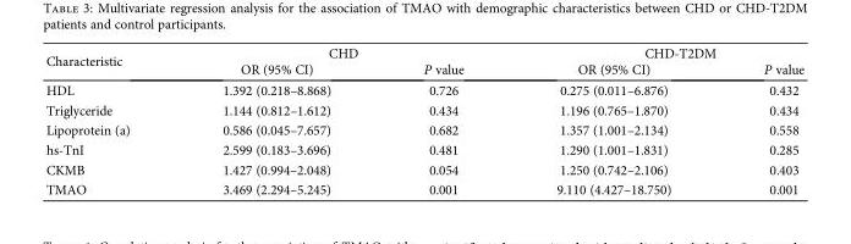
<table><thead><tr><td rowspan="2">Characteristic</td><td colspan="2">CHD</td><td colspan="2">CHD-T2DM</td></tr><tr><td>OR (95% CI)</td><td>P value</td><td>OR (95% CI)</td><td>P value</td></tr></thead><tbody><tr><td>HDL</td><td>1.392 (0.218–8.868)</td><td>0.726</td><td>0.275 (0.011–6.876)</td><td>0.432</td></tr><tr><td>Triglyceride</td><td>1.144 (0.812–1.612)</td><td>0.434</td><td>1.196 (0.765–1.870)</td><td>0.434</td></tr><tr><td>Lipoprotein (a)</td><td>0.586 (0.045–7.657)</td><td>0.682</td><td>1.357 (1.001–2.134)</td><td>0.558</td></tr><tr><td>hs-TnI</td><td>2.599 (0.183–3.696)</td><td>0.481</td><td>1.290 (1.001–1.831)</td><td>0.285</td></tr><tr><td>CKMB</td><td>1.427 (0.994–2.048)</td><td>0.054</td><td>1.250 (0.742–2.106)</td><td>0.403</td></tr><tr><td>TMAO</td><td>3.469 (2.294–5.245)</td><td>0.001</td><td>9.110 (4.427–18.750)</td><td>0.001</td></tr></tbody></table>